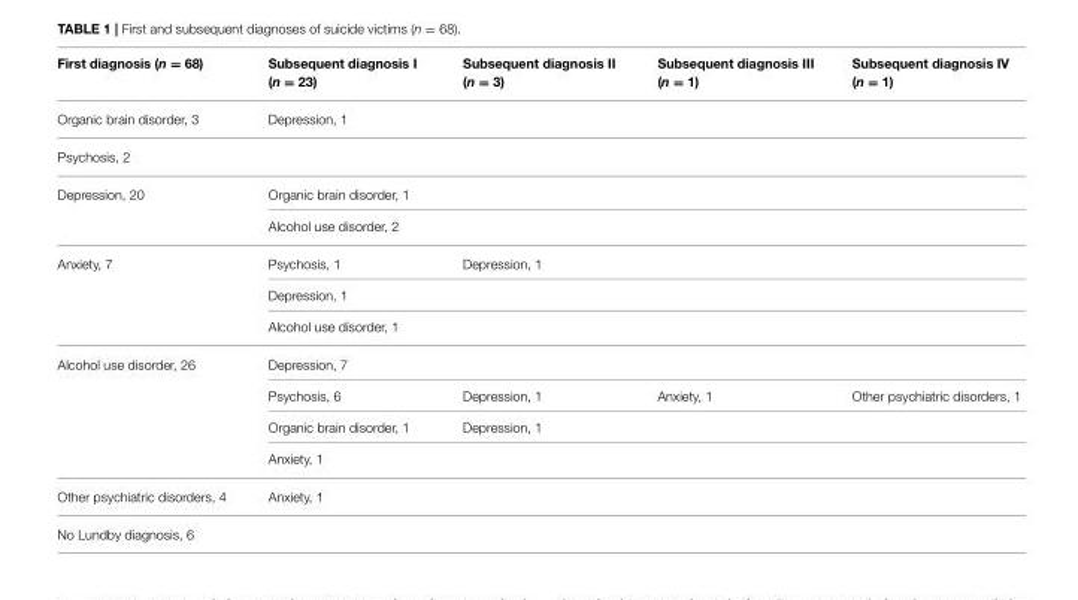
<table><thead><tr><td>First diagnosis (n = 68)</td><td>Subsequent diagnosis I (n = 23)</td><td>Subsequent diagnosis II (n = 3)</td><td>Subsequent diagnosis III (n = 1)</td><td>Subsequent diagnosis IV (n = 1)</td></tr></thead><tbody><tr><td>Organic brain disorder, 3</td><td>Depression, 1</td><td></td><td></td><td></td></tr><tr><td colspan="5">Psychosis, 2</td></tr><tr><td rowspan="2">Depression, 20</td><td>Organic brain disorder, 1</td><td></td><td></td><td></td></tr><tr><td>Alcohol use disorder, 2</td><td></td><td></td><td></td></tr><tr><td rowspan="3">Anxiety, 7</td><td>Psychosis, 1</td><td>Depression, 1</td><td></td><td></td></tr><tr><td>Depression, 1</td><td></td><td></td><td></td></tr><tr><td>Alcohol use disorder, 1</td><td></td><td></td><td></td></tr><tr><td rowspan="4">Alcohol use disorder, 26</td><td>Depression, 7</td><td></td><td></td><td></td></tr><tr><td>Psychosis, 6</td><td>Depression, 1</td><td>Anxiety, 1</td><td>Other psychiatric disorders, 1</td></tr><tr><td>Organic brain disorder, 1</td><td>Depression, 1</td><td></td><td></td></tr><tr><td>Anxiety, 1</td><td></td><td></td><td></td></tr><tr><td>Other psychiatric disorders, 4</td><td>Anxiety, 1</td><td></td><td></td><td></td></tr><tr><td>No Lundby diagnosis, 6</td><td></td><td></td><td></td><td></td></tr></tbody></table>